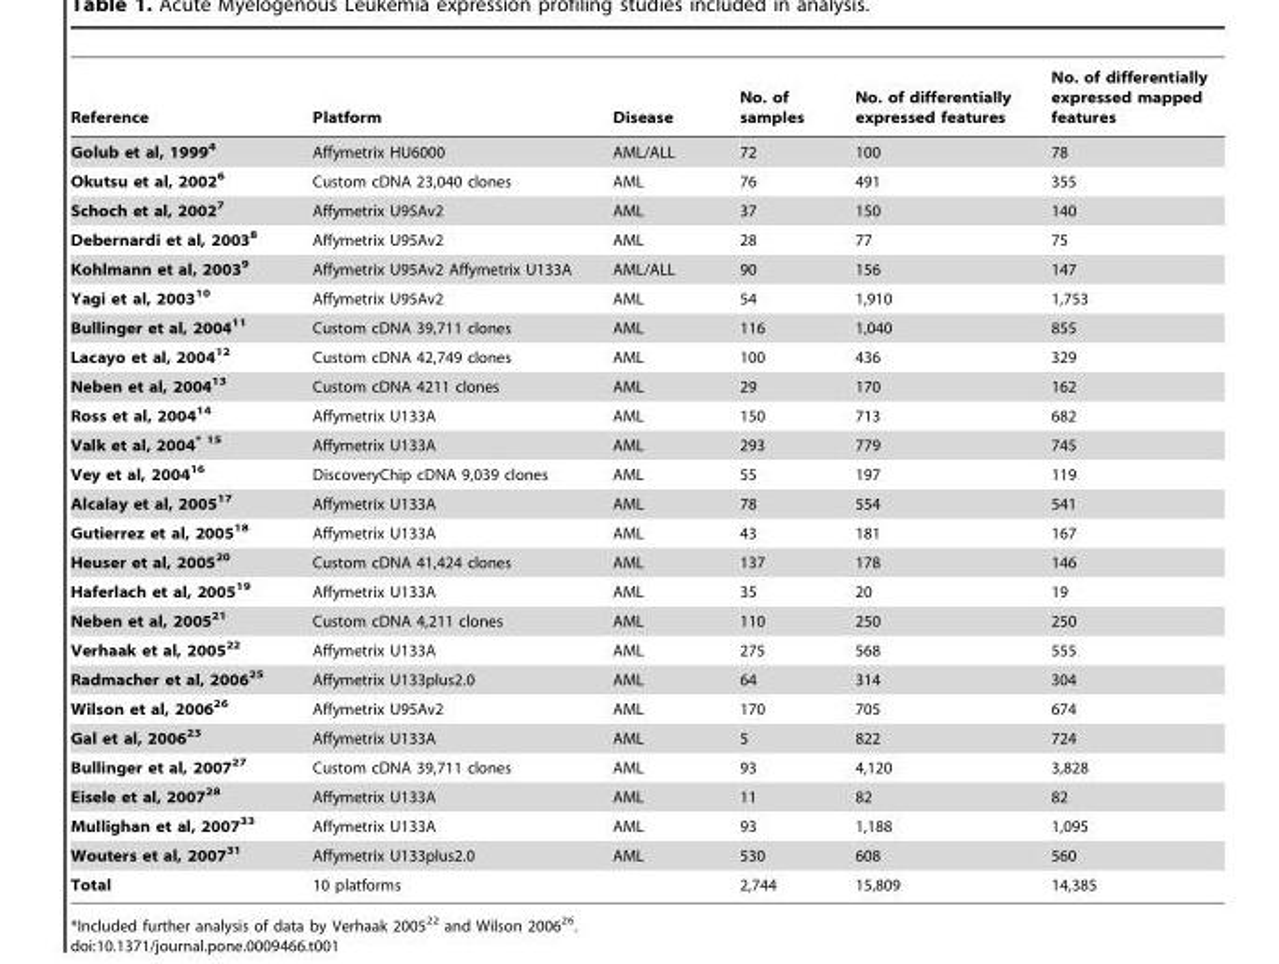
<table><thead><tr><td>Reference</td><td>Platform</td><td>Disease</td><td>No. of samples</td><td>No. of differentially expressed features</td><td>No. of differentially expressed mapped features</td></tr></thead><tbody><tr><td>Golub et al, 1999<sup>4</sup></td><td>Affymetrix HU6000</td><td>AML/ALL</td><td>72</td><td>100</td><td>78</td></tr><tr><td>Okutsu et al, 2002<sup>6</sup></td><td>Custom cDNA 23,040 clones</td><td>AML</td><td>76</td><td>491</td><td>355</td></tr><tr><td>Schoch et al, 2002<sup>7</sup></td><td>Affymetrix U95Av2</td><td>AML</td><td>37</td><td>150</td><td>140</td></tr><tr><td>Debernardi et al, 2003<sup>8</sup></td><td>Affymetrix U95Av2</td><td>AML</td><td>28</td><td>77</td><td>75</td></tr><tr><td>Kohlmann et al, 2003<sup>9</sup></td><td>Affymetrix U95Av2 Affymetrix U133A</td><td>AML/ALL</td><td>90</td><td>156</td><td>147</td></tr><tr><td>Yagi et al, 2003<sup>10</sup></td><td>Affymetrix U95Av2</td><td>AML</td><td>54</td><td>1,910</td><td>1,753</td></tr><tr><td>Bullinger et al, 2004<sup>11</sup></td><td>Custom cDNA 39,711 clones</td><td>AML</td><td>116</td><td>1,040</td><td>855</td></tr><tr><td>Lacayo et al, 2004<sup>12</sup></td><td>Custom cDNA 42,749 clones</td><td>AML</td><td>100</td><td>436</td><td>329</td></tr><tr><td>Neben et al, 2004<sup>13</sup></td><td>Custom cDNA 4211 clones</td><td>AML</td><td>29</td><td>170</td><td>162</td></tr><tr><td>Ross et al, 2004<sup>14</sup></td><td>Affymetrix U133A</td><td>AML</td><td>150</td><td>713</td><td>682</td></tr><tr><td>Valk et al, 2004* 15</td><td>Affymetrix U133A</td><td>AML</td><td>293</td><td>779</td><td>745</td></tr><tr><td>Vey et al, 2004<sup>16</sup></td><td>DiscoveryChip cDNA 9,039 clones</td><td>AML</td><td>55</td><td>197</td><td>119</td></tr><tr><td>Alcalay et al, 2005<sup>17</sup></td><td>Affymetrix U133A</td><td>AML</td><td>78</td><td>554</td><td>541</td></tr><tr><td>Gutierrez et al, 2005<sup>18</sup></td><td>Affymetrix U133A</td><td>AML</td><td>43</td><td>181</td><td>167</td></tr><tr><td>Heuser et al, 2005<sup>20</sup></td><td>Custom cDNA 41,424 clones</td><td>AML</td><td>137</td><td>178</td><td>146</td></tr><tr><td>Haferlach et al, 2005<sup>19</sup></td><td>Affymetrix U133A</td><td>AML</td><td>35</td><td>20</td><td>19</td></tr><tr><td>Neben et al, 2005<sup>21</sup></td><td>Custom cDNA 4,211 clones</td><td>AML</td><td>110</td><td>250</td><td>250</td></tr><tr><td>Verhaak et al, 2005<sup>22</sup></td><td>Affymetrix U133A</td><td>AML</td><td>275</td><td>568</td><td>555</td></tr><tr><td>Radmacher et al, 2006<sup>25</sup></td><td>Affymetrix U133plus2.0</td><td>AML</td><td>64</td><td>314</td><td>304</td></tr><tr><td>Wilson et al, 2006<sup>26</sup></td><td>Affymetrix U95Av2</td><td>AML</td><td>170</td><td>705</td><td>674</td></tr><tr><td>Gal et al, 2006<sup>23</sup></td><td>Affymetrix U133A</td><td>AML</td><td>5</td><td>822</td><td>724</td></tr><tr><td>Bullinger et al, 2007<sup>27</sup></td><td>Custom cDNA 39,711 clones</td><td>AML</td><td>93</td><td>4,120</td><td>3,828</td></tr><tr><td>Eisele et al, 2007<sup>28</sup></td><td>Affymetrix U133A</td><td>AML</td><td>11</td><td>82</td><td>82</td></tr><tr><td>Mullighan et al, 2007<sup>33</sup></td><td>Affymetrix U133A</td><td>AML</td><td>93</td><td>1,188</td><td>1,095</td></tr><tr><td>Wouters et al, 2007<sup>31</sup></td><td>Affymetrix U133plus2.0</td><td>AML</td><td>530</td><td>608</td><td>560</td></tr><tr><td>Total</td><td>10 platforms</td><td></td><td>2,744</td><td>15,809</td><td>14,385</td></tr></tbody></table>